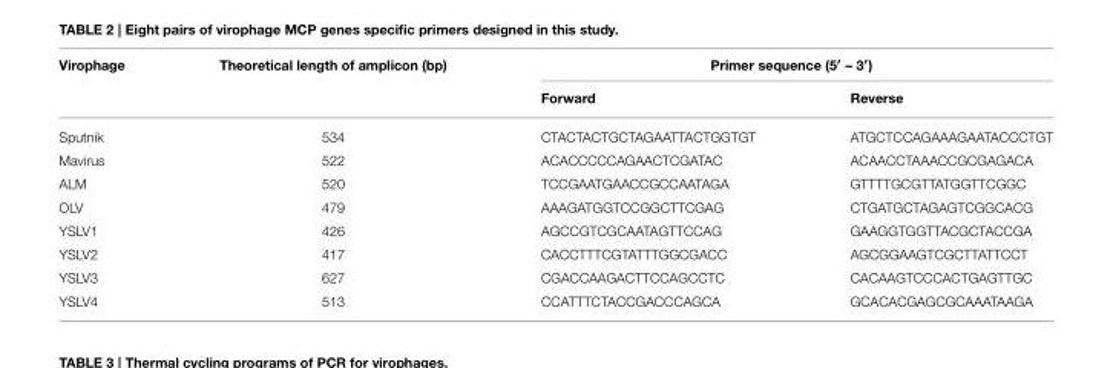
<table><thead><tr><td rowspan="2">Virophage</td><td rowspan="2">Theoretical length of amplicon (bp)</td><td colspan="2">Primer sequence (5<sup>′</sup> – 3<sup>′</sup>)</td></tr><tr><td>Forward</td><td>Reverse</td></tr></thead><tbody><tr><td>Sputnik</td><td>534</td><td>CTACTACTGCTAGAATTACTGGTGT</td><td>ATGCTCCAGAAAGAATACCCTGT</td></tr><tr><td>Mavirus</td><td>522</td><td>ACACCCCCAGAACTCGATAC</td><td>ACAACCTAAACCGCGAGACA</td></tr><tr><td>ALM</td><td>520</td><td>TCCGAATGAACCGCCAATAGA</td><td>GTTTTGCGTTATGGTTCGGC</td></tr><tr><td>OLV</td><td>479</td><td>AAAGATGGTCCGGCTTCGAG</td><td>CTGATGCTAGAGTCGGCACG</td></tr><tr><td>YSLV1</td><td>426</td><td>AGCCGTCGCAATAGTTCCAG</td><td>GAAGGTGGTTACGCTACCGA</td></tr><tr><td>YSLV2</td><td>417</td><td>CACCTTTCGTATTTGGCGACC</td><td>AGCGGAAGTCGCTTATTCCT</td></tr><tr><td>YSLV3</td><td>627</td><td>CGACCAAGACTTCCAGCCTC</td><td>CACAAGTCCCACTGAGTTGC</td></tr><tr><td>YSLV4</td><td>513</td><td>CCATTTCTACCGACCCAGCA</td><td>GCACACGAGCGCAAATAAGA</td></tr></tbody></table>